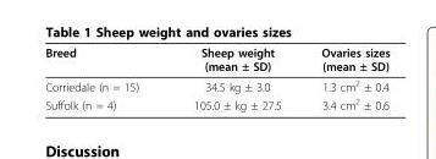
<table><thead><tr><td>Breed</td><td>Sheep weight (mean ± SD)</td><td>Ovaries sizes (mean ± SD)</td></tr></thead><tbody><tr><td>Corriedale (n = 15)</td><td>34.5 kg ± 3.0</td><td>1.3 cm<sup>2</sup> ± 0.4</td></tr><tr><td>Suffolk (n = 4)</td><td>105.0 ± kg ± 27.5</td><td>3.4 cm<sup>2</sup> ± 0.6</td></tr></tbody></table>